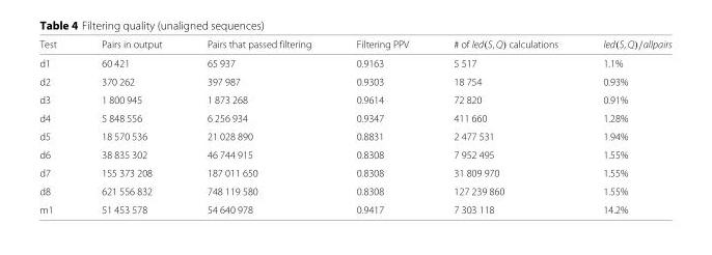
<table><thead><tr><td>Test</td><td>Pairs in output</td><td>Pairs that passed filtering</td><td>Filtering PPV</td><td># of led(S, Q) calculations</td><td>led(S, Q)/allpairs</td></tr></thead><tbody><tr><td>d1</td><td>60 421</td><td>65 937</td><td>0.9163</td><td>5 517</td><td>1.1%</td></tr><tr><td>d2</td><td>370 262</td><td>397 987</td><td>0.9303</td><td>18 754</td><td>0.93%</td></tr><tr><td>d3</td><td>1 800 945</td><td>1 873 268</td><td>0.9614</td><td>72 820</td><td>0.91%</td></tr><tr><td>d4</td><td>5 848 556</td><td>6 256 934</td><td>0.9347</td><td>411 660</td><td>1.28%</td></tr><tr><td>d5</td><td>18 570 536</td><td>21 028 890</td><td>0.8831</td><td>2 477 531</td><td>1.94%</td></tr><tr><td>d6</td><td>38 835 302</td><td>46 744 915</td><td>0.8308</td><td>7 952 495</td><td>1.55%</td></tr><tr><td>d7</td><td>155 373 208</td><td>187 011 650</td><td>0.8308</td><td>31 809 970</td><td>1.55%</td></tr><tr><td>d8</td><td>621 556 832</td><td>748 119 580</td><td>0.8308</td><td>127 239 860</td><td>1.55%</td></tr><tr><td>m1</td><td>51 453 578</td><td>54 640 978</td><td>0.9417</td><td>7 303 118</td><td>14.2%</td></tr></tbody></table>